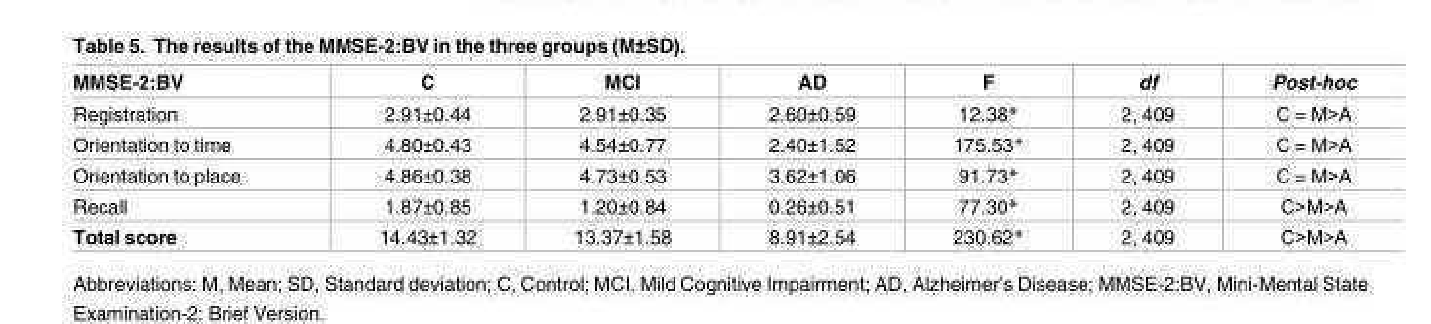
<table><thead><tr><td>MMSE-2:BV</td><td>C</td><td>MCI</td><td>AD</td><td>F</td><td>df</td><td>Post-hoc</td></tr></thead><tbody><tr><td>Registration</td><td>2.91±0.44</td><td>2.91±0.35</td><td>2.60±0.59</td><td>12.38*</td><td>2, 409</td><td>C = M&gt;A</td></tr><tr><td>Orientation to time</td><td>4.80±0.43</td><td>4.54±0.77</td><td>2.40±1.52</td><td>175.53*</td><td>2, 409</td><td>C = M&gt;A</td></tr><tr><td>Orientation to place</td><td>4.86±0.38</td><td>4.73±0.53</td><td>3.62±1.06</td><td>91.73*</td><td>2, 409</td><td>C = M&gt;A</td></tr><tr><td>Recall</td><td>1.87±0.85</td><td>1.20±0.84</td><td>0.26±0.51</td><td>77.30*</td><td>2, 409</td><td>C&gt;M&gt;A</td></tr><tr><td>Total score</td><td>14.43±1.32</td><td>13.37±1.58</td><td>8.91±2.54</td><td>230.62*</td><td>2, 409</td><td>C&gt;M&gt;A</td></tr></tbody></table>